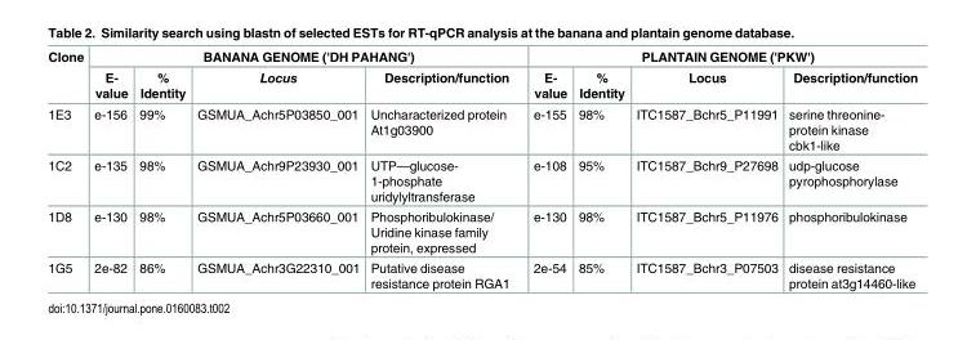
<table><thead><tr><td rowspan="2">Clone</td><td colspan="4">BANANA GENOME (&#x27;DH PAHANG&#x27;)</td><td colspan="4">PLANTAIN GENOME (&#x27;PKW&#x27;)</td></tr><tr><td>E- value</td><td>% Identity</td><td>Locus</td><td>Description/function</td><td>E- value</td><td>% Identity</td><td>Locus</td><td>Description/function</td></tr></thead><tbody><tr><td>1E3</td><td>e-156</td><td>99%</td><td>GSMUA_Achr5P03850_001</td><td>Uncharacterized protein At1g03900</td><td>e-155</td><td>98%</td><td>ITC1587_Bchr5_P11991</td><td>serine threonine- protein kinase cbk1-like</td></tr><tr><td>1C2</td><td>e-135</td><td>98%</td><td>GSMUA_Achr9P23930_001</td><td>UTP—glucose- 1-phosphate uridylyltransferase</td><td>e-108</td><td>95%</td><td>ITC1587_Bchr9_P27698</td><td>udp-glucose pyrophosphorylase</td></tr><tr><td>1D8</td><td>e-130</td><td>98%</td><td>GSMUA_Achr5P03660_001</td><td>Phosphoribulokinase/ Uridine kinase family protein, expressed</td><td>e-130</td><td>98%</td><td>ITC1587_Bchr5_P11976</td><td>phosphoribulokinase</td></tr><tr><td>1G5</td><td>2e-82</td><td>86%</td><td>GSMUA_Achr3G22310_001</td><td>Putative disease resistance protein RGA1</td><td>2e-54</td><td>85%</td><td>ITC1587_Bchr3_P07503</td><td>disease resistance protein at3g14460-like</td></tr></tbody></table>